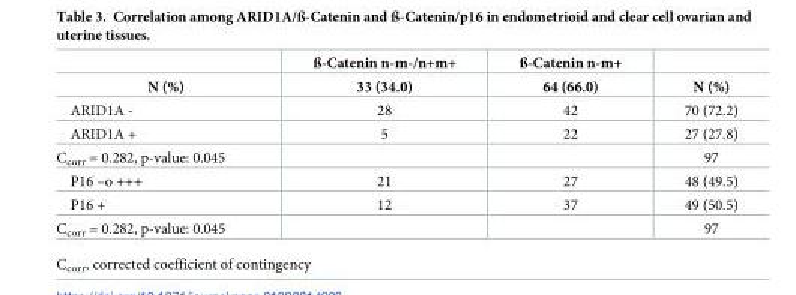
<table><thead><tr><td rowspan="2">N (%)</td><td rowspan="2">ß-Catenin n-m-/n+m+ 33 (34.0)</td><td rowspan="2">ß-Catenin n-m+ 64 (66.0)</td><td rowspan="2">N (%)</td></tr><tr></tr></thead><tbody><tr><td>ARID1A -</td><td>28</td><td>42</td><td>70 (72.2)</td></tr><tr><td>ARID1A +</td><td>5</td><td>22</td><td>27 (27.8)</td></tr><tr><td>C<sub>corr</sub> = 0.282, p-value: 0.045</td><td></td><td></td><td>97</td></tr><tr><td>P16 –o +++</td><td>21</td><td>27</td><td>48 (49.5)</td></tr><tr><td>P16 +</td><td>12</td><td>37</td><td>49 (50.5)</td></tr><tr><td>C<sub>corr</sub> = 0.282, p-value: 0.045</td><td></td><td></td><td>97</td></tr></tbody></table>